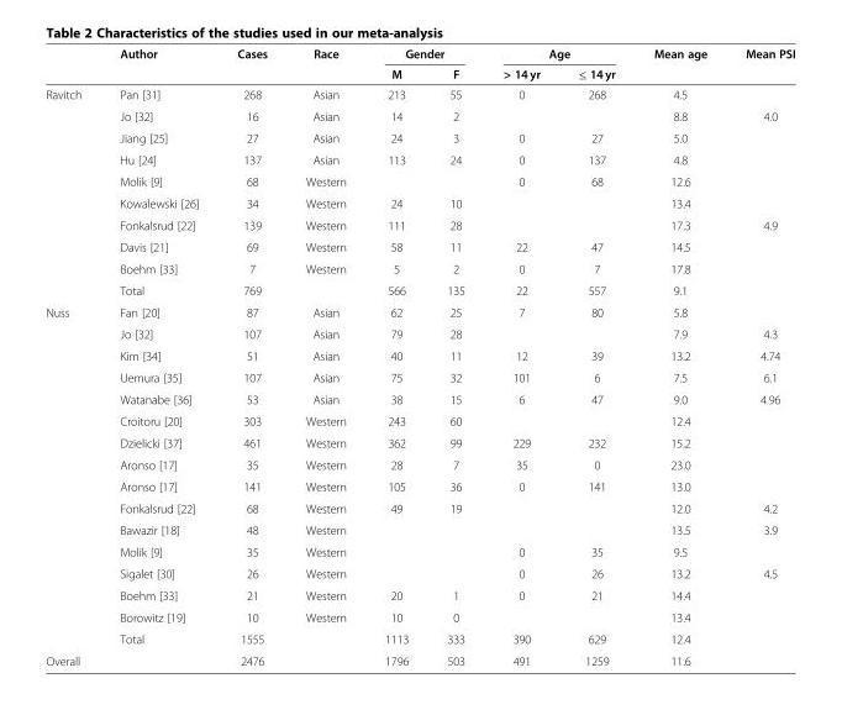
<table><thead><tr><td rowspan="2"></td><td rowspan="2">Author</td><td rowspan="2">Cases</td><td rowspan="2">Race</td><td colspan="2">Gender</td><td colspan="2">Age</td><td rowspan="2">Mean age</td><td rowspan="2">Mean PSI</td></tr><tr><td>M</td><td>F</td><td>&gt; 14 yr</td><td>≤ 14 yr</td></tr></thead><tbody><tr><td rowspan="10">Ravitch</td><td>Pan [31]</td><td>268</td><td>Asian</td><td>213</td><td>55</td><td>0</td><td>268</td><td>4.5</td><td></td></tr><tr><td>Jo [32]</td><td>16</td><td>Asian</td><td>14</td><td>2</td><td></td><td></td><td>8.8</td><td>4.0</td></tr><tr><td>Jiang [25]</td><td>27</td><td>Asian</td><td>24</td><td>3</td><td>0</td><td>27</td><td>5.0</td><td></td></tr><tr><td>Hu [24]</td><td>137</td><td>Asian</td><td>113</td><td>24</td><td>0</td><td>137</td><td>4.8</td><td></td></tr><tr><td>Molik [9]</td><td>68</td><td>Western</td><td></td><td></td><td>0</td><td>68</td><td>12.6</td><td></td></tr><tr><td>Kowalewski [26]</td><td>34</td><td>Western</td><td>24</td><td>10</td><td></td><td></td><td>13.4</td><td></td></tr><tr><td>Fonkalsrud [22]</td><td>139</td><td>Western</td><td>111</td><td>28</td><td></td><td></td><td>17.3</td><td>4.9</td></tr><tr><td>Davis [21]</td><td>69</td><td>Western</td><td>58</td><td>11</td><td>22</td><td>47</td><td>14.5</td><td></td></tr><tr><td>Boehm [33]</td><td>7</td><td>Western</td><td>5</td><td>2</td><td>0</td><td>7</td><td>17.8</td><td></td></tr><tr><td>Total</td><td>769</td><td></td><td>566</td><td>135</td><td>22</td><td>557</td><td>9.1</td><td></td></tr><tr><td rowspan="16">Nuss</td><td>Fan [20]</td><td>87</td><td>Asian</td><td>62</td><td>25</td><td>7</td><td>80</td><td>5.8</td><td></td></tr><tr><td>Jo [32]</td><td>107</td><td>Asian</td><td>79</td><td>28</td><td></td><td></td><td>7.9</td><td>4.3</td></tr><tr><td>Kim [34]</td><td>51</td><td>Asian</td><td>40</td><td>11</td><td>12</td><td>39</td><td>13.2</td><td>4.74</td></tr><tr><td>Uemura [35]</td><td>107</td><td>Asian</td><td>75</td><td>32</td><td>101</td><td>6</td><td>7.5</td><td>6.1</td></tr><tr><td>Watanabe [36]</td><td>53</td><td>Asian</td><td>38</td><td>15</td><td>6</td><td>47</td><td>9.0</td><td>4.96</td></tr><tr><td>Croitoru [20]</td><td>303</td><td>Western</td><td>243</td><td>60</td><td></td><td></td><td>12.4</td><td></td></tr><tr><td>Dzielicki [37]</td><td>461</td><td>Western</td><td>362</td><td>99</td><td>229</td><td>232</td><td>15.2</td><td></td></tr><tr><td>Aronso [17]</td><td>35</td><td>Western</td><td>28</td><td>7</td><td>35</td><td>0</td><td>23.0</td><td></td></tr><tr><td>Aronso [17]</td><td>141</td><td>Western</td><td>105</td><td>36</td><td>0</td><td>141</td><td>13.0</td><td></td></tr><tr><td>Fonkalsrud [22]</td><td>68</td><td>Western</td><td>49</td><td>19</td><td></td><td></td><td>12.0</td><td>4.2</td></tr><tr><td>Bawazir [18]</td><td>48</td><td>Western</td><td></td><td></td><td></td><td></td><td>13.5</td><td>3.9</td></tr><tr><td>Molik [9]</td><td>35</td><td>Western</td><td></td><td></td><td>0</td><td>35</td><td>9.5</td><td></td></tr><tr><td>Sigalet [30]</td><td>26</td><td>Western</td><td></td><td></td><td>0</td><td>26</td><td>13.2</td><td>4.5</td></tr><tr><td>Boehm [33]</td><td>21</td><td>Western</td><td>20</td><td>1</td><td>0</td><td>21</td><td>14.4</td><td></td></tr><tr><td>Borowitz [19]</td><td>10</td><td>Western</td><td>10</td><td>0</td><td></td><td></td><td>13.4</td><td></td></tr><tr><td>Total</td><td>1555</td><td></td><td>1113</td><td>333</td><td>390</td><td>629</td><td>12.4</td><td></td></tr><tr><td>Overall</td><td></td><td>2476</td><td></td><td>1796</td><td>503</td><td>491</td><td>1259</td><td>11.6</td><td></td></tr></tbody></table>